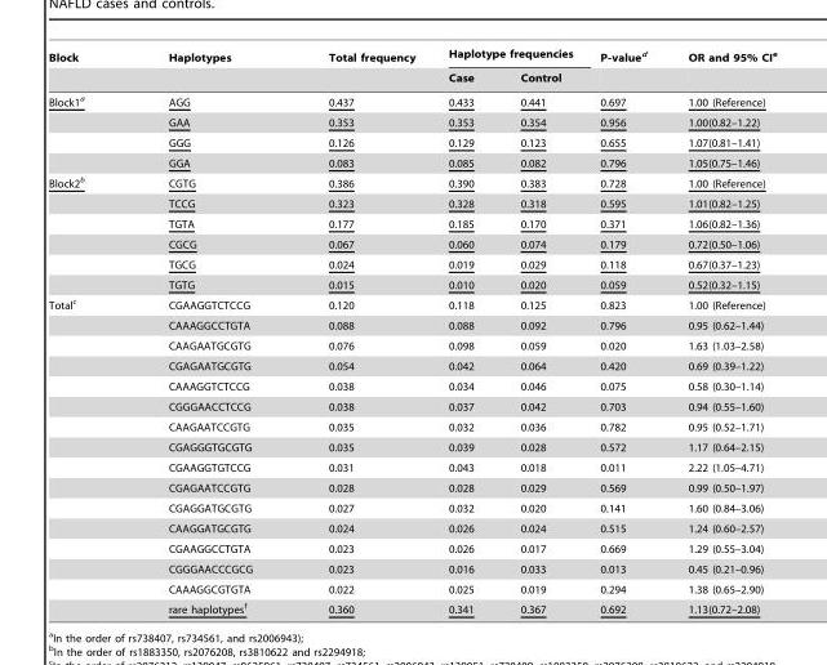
<table><thead><tr><td rowspan="2">Block</td><td rowspan="2">Haplotypes</td><td rowspan="2">Total frequency</td><td colspan="2">Haplotype frequencies</td><td rowspan="2">P-value<sup>d</sup></td><td rowspan="2">OR and 95% CI<sup>e</sup></td></tr><tr><td>Case</td><td>Control</td></tr></thead><tbody><tr><td rowspan="4">Block1a</td><td>AGG</td><td>0.437</td><td>0.433</td><td>0.441</td><td>0.697</td><td>1.00 (Reference)</td></tr><tr><td>GAA</td><td>0.353</td><td>0.353</td><td>0.354</td><td>0.956</td><td>1.00(0.82–1.22)</td></tr><tr><td>GGG</td><td>0.126</td><td>0.129</td><td>0.123</td><td>0.655</td><td>1.07(0.81–1.41)</td></tr><tr><td>GGA</td><td>0.083</td><td>0.085</td><td>0.082</td><td>0.796</td><td>1.05(0.75–1.46)</td></tr><tr><td rowspan="6">Block2b</td><td>CGTG</td><td>0.386</td><td>0.390</td><td>0.383</td><td>0.728</td><td>1.00 (Reference)</td></tr><tr><td>TCCG</td><td>0.323</td><td>0.328</td><td>0.318</td><td>0.595</td><td>1.01(0.82–1.25)</td></tr><tr><td>TGTA</td><td>0.177</td><td>0.185</td><td>0.170</td><td>0.371</td><td>1.06(0.82–1.36)</td></tr><tr><td>CGCG</td><td>0.067</td><td>0.060</td><td>0.074</td><td>0.179</td><td>0.72(0.50–1.06)</td></tr><tr><td>TGCG</td><td>0.024</td><td>0.019</td><td>0.029</td><td>0.118</td><td>0.67(0.37–1.23)</td></tr><tr><td>TGTG</td><td>0.015</td><td>0.010</td><td>0.020</td><td>0.059</td><td>0.52(0.32–1.15)</td></tr><tr><td rowspan="16">Total<sup>c</sup></td><td>CGAAGGTCTCCG</td><td>0.120</td><td>0.118</td><td>0.125</td><td>0.823</td><td>1.00 (Reference)</td></tr><tr><td>CAAAGGCCTGTA</td><td>0.088</td><td>0.088</td><td>0.092</td><td>0.796</td><td>0.95 (0.62–1.44)</td></tr><tr><td>CAAGAATGCGTG</td><td>0.076</td><td>0.098</td><td>0.059</td><td>0.020</td><td>1.63 (1.03–2.58)</td></tr><tr><td>CGAGAATGCGTG</td><td>0.054</td><td>0.042</td><td>0.064</td><td>0.420</td><td>0.69 (0.39–1.22)</td></tr><tr><td>CAAAGGTCTCCG</td><td>0.038</td><td>0.034</td><td>0.046</td><td>0.075</td><td>0.58 (0.30–1.14)</td></tr><tr><td>CGGGAACCTCCG</td><td>0.038</td><td>0.037</td><td>0.042</td><td>0.703</td><td>0.94 (0.55–1.60)</td></tr><tr><td>CAAGAATCCGTG</td><td>0.035</td><td>0.032</td><td>0.036</td><td>0.782</td><td>0.95 (0.52–1.71)</td></tr><tr><td>CGAGGGTGCGTG</td><td>0.035</td><td>0.039</td><td>0.028</td><td>0.572</td><td>1.17 (0.64–2.15)</td></tr><tr><td>CGAAGGTGTCCG</td><td>0.031</td><td>0.043</td><td>0.018</td><td>0.011</td><td>2.22 (1.05–4.71)</td></tr><tr><td>CGAGAATCCGTG</td><td>0.028</td><td>0.028</td><td>0.029</td><td>0.569</td><td>0.99 (0.50–1.97)</td></tr><tr><td>CGAGGATGCGTG</td><td>0.027</td><td>0.032</td><td>0.020</td><td>0.141</td><td>1.60 (0.84–3.06)</td></tr><tr><td>CAAGGATGCGTG</td><td>0.024</td><td>0.026</td><td>0.024</td><td>0.515</td><td>1.24 (0.60–2.57)</td></tr><tr><td>CGAAGGCCTGTA</td><td>0.023</td><td>0.026</td><td>0.017</td><td>0.669</td><td>1.29 (0.55–3.04)</td></tr><tr><td>CGGGAACCCGCG</td><td>0.023</td><td>0.016</td><td>0.033</td><td>0.013</td><td>0.45 (0.21–0.96)</td></tr><tr><td>CAAAGGCGTGTA</td><td>0.022</td><td>0.025</td><td>0.019</td><td>0.294</td><td>1.38 (0.65–2.90)</td></tr><tr><td>rare haplotypesf</td><td>0.360</td><td>0.341</td><td>0.367</td><td>0.692</td><td>1.13(0.72–2.08)</td></tr></tbody></table>